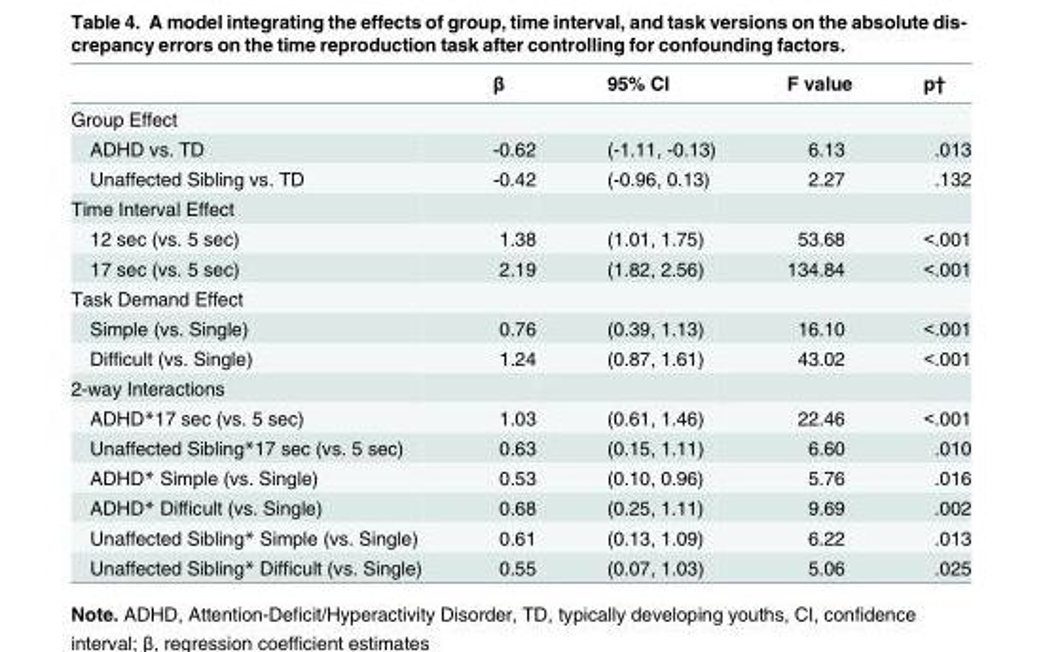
<table><thead><tr><td></td><td>β</td><td>95% CI</td><td>F value</td><td>p†</td></tr></thead><tbody><tr><td colspan="5">Group Effect</td></tr><tr><td>ADHD vs. TD</td><td>-0.62</td><td>(-1.11, -0.13)</td><td>6.13</td><td>.013</td></tr><tr><td>Unaffected Sibling vs. TD</td><td>-0.42</td><td>(-0.96, 0.13)</td><td>2.27</td><td>.132</td></tr><tr><td colspan="5">Time Interval Effect</td></tr><tr><td>12 sec (vs. 5 sec)</td><td>1.38</td><td>(1.01, 1.75)</td><td>53.68</td><td>&lt;.001</td></tr><tr><td>17 sec (vs. 5 sec)</td><td>2.19</td><td>(1.82, 2.56)</td><td>134.84</td><td>&lt;.001</td></tr><tr><td colspan="5">Task Demand Effect</td></tr><tr><td>Simple (vs. Single)</td><td>0.76</td><td>(0.39, 1.13)</td><td>16.10</td><td>&lt;.001</td></tr><tr><td>Difficult (vs. Single)</td><td>1.24</td><td>(0.87, 1.61)</td><td>43.02</td><td>&lt;.001</td></tr><tr><td colspan="5">2-way Interactions</td></tr><tr><td>ADHD*17 sec (vs. 5 sec)</td><td>1.03</td><td>(0.61, 1.46)</td><td>22.46</td><td>&lt;.001</td></tr><tr><td>Unaffected Sibling*17 sec (vs. 5 sec)</td><td>0.63</td><td>(0.15, 1.11)</td><td>6.60</td><td>.010</td></tr><tr><td>ADHD* Simple (vs. Single)</td><td>0.53</td><td>(0.10, 0.96)</td><td>5.76</td><td>.016</td></tr><tr><td>ADHD* Difficult (vs. Single)</td><td>0.68</td><td>(0.25, 1.11)</td><td>9.69</td><td>.002</td></tr><tr><td>Unaffected Sibling* Simple (vs. Single)</td><td>0.61</td><td>(0.13, 1.09)</td><td>6.22</td><td>.013</td></tr><tr><td>Unaffected Sibling* Difficult (vs. Single)</td><td>0.55</td><td>(0.07, 1.03)</td><td>5.06</td><td>.025</td></tr></tbody></table>